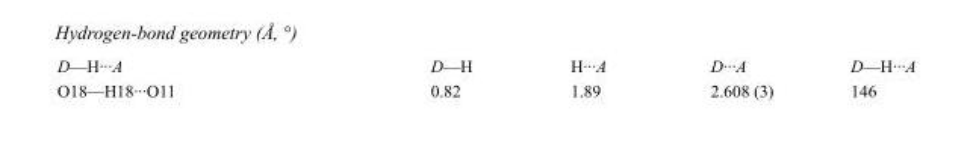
<table><tbody><tr><td>D—H···A</td><td>D—H</td><td>H···A</td><td>D···A</td><td>D—H···A</td></tr><tr><td>O18—H18···O11</td><td>0.82</td><td>1.89</td><td>2.608 (3)</td><td>146</td></tr></tbody></table>